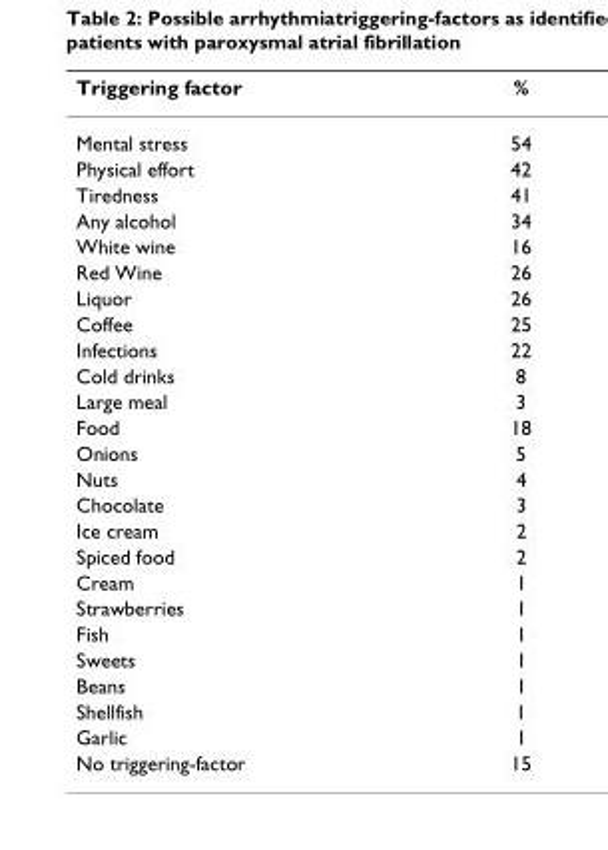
<table><thead><tr><td>Triggering factor</td><td>%</td></tr></thead><tbody><tr><td>Mental stress</td><td>54</td></tr><tr><td>Physical effort</td><td>42</td></tr><tr><td>Tiredness</td><td>41</td></tr><tr><td>Any alcohol</td><td>34</td></tr><tr><td>White wine</td><td>16</td></tr><tr><td>Red Wine</td><td>26</td></tr><tr><td>Liquor</td><td>26</td></tr><tr><td>Coffee</td><td>25</td></tr><tr><td>Infections</td><td>22</td></tr><tr><td>Cold drinks</td><td>8</td></tr><tr><td>Large meal</td><td>3</td></tr><tr><td>Food</td><td>18</td></tr><tr><td>Onions</td><td>5</td></tr><tr><td>Nuts</td><td>4</td></tr><tr><td>Chocolate</td><td>3</td></tr><tr><td>Ice cream</td><td>2</td></tr><tr><td>Spiced food</td><td>2</td></tr><tr><td>Cream</td><td>1</td></tr><tr><td>Strawberries</td><td>1</td></tr><tr><td>Fish</td><td>1</td></tr><tr><td>Sweets</td><td>1</td></tr><tr><td>Beans</td><td>1</td></tr><tr><td>Shellfish</td><td>1</td></tr><tr><td>Garlic</td><td>1</td></tr><tr><td>No triggering-factor</td><td>15</td></tr></tbody></table>